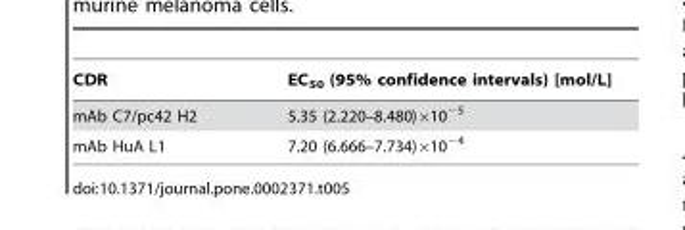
<table><thead><tr><td>CDR</td><td>EC<sub>50</sub> (95% confidence intervals) [mol/L]</td></tr></thead><tbody><tr><td>mAb C7/pc42 H2</td><td>5.35 (2.220–8.480)×10<sup>−5</sup></td></tr><tr><td>mAb HuA L1</td><td>7.20 (6.666–7.734)×10<sup>−4</sup></td></tr></tbody></table>